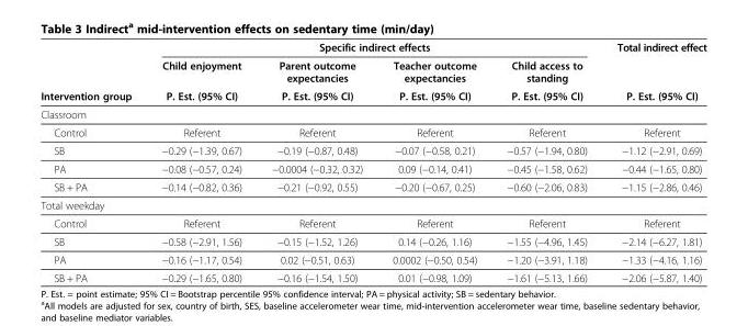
<table><thead><tr><td rowspan="3">Intervention group</td><td colspan="4">Specific indirect effects</td><td rowspan="3">Total indirect effect P. Est. (95% CI)</td></tr><tr><td rowspan="2">Child enjoyment P. Est. (95% CI)</td><td rowspan="2">Parent outcome expectancies P. Est. (95% CI)</td><td rowspan="2">Teacher outcome expectancies P. Est. (95% CI)</td><td rowspan="2">Child access to standing P. Est. (95% CI)</td></tr><tr></tr></thead><tbody><tr><td colspan="6">Classroom</td></tr><tr><td>Control</td><td>Referent</td><td>Referent</td><td>Referent</td><td>Referent</td><td>Referent</td></tr><tr><td>SB</td><td>−0.29 (−1.39, 0.67)</td><td>−0.19 (−0.87, 0.48)</td><td>−0.07 (−0.58, 0.21)</td><td>−0.57 (−1.94, 0.80)</td><td>−1.12 (−2.91, 0.69)</td></tr><tr><td>PA</td><td>−0.08 (−0.57, 0.24)</td><td>−0.0004 (−0.32, 0.32)</td><td>0.09 (−0.14, 0.41)</td><td>−0.45 (−1.58, 0.62)</td><td>−0.44 (−1.65, 0.80)</td></tr><tr><td>SB + PA</td><td>−0.14 (−0.82, 0.36)</td><td>−0.21 (−0.92, 0.55)</td><td>−0.20 (−0.67, 0.25)</td><td>−0.60 (−2.06, 0.83)</td><td>−1.15 (−2.86, 0.46)</td></tr><tr><td colspan="6">Total weekday</td></tr><tr><td>Control</td><td>Referent</td><td>Referent</td><td>Referent</td><td>Referent</td><td>Referent</td></tr><tr><td>SB</td><td>−0.58 (−2.91, 1.56)</td><td>−0.15 (−1.52, 1.26)</td><td>0.14 (−0.26, 1.16)</td><td>−1.55 (−4.96, 1.45)</td><td>−2.14 (−6.27, 1.81)</td></tr><tr><td>PA</td><td>−0.16 (−1.17, 0.54)</td><td>0.02 (−0.51, 0.63)</td><td>0.0002 (−0.50, 0.54)</td><td>−1.20 (−3.91, 1.18)</td><td>−1.33 (−4.16, 1.16)</td></tr><tr><td>SB + PA</td><td>−0.29 (−1.65, 0.80)</td><td>−0.16 (−1.54, 1.50)</td><td>0.01 (−0.98, 1.09)</td><td>−1.61 (−5.13, 1.66)</td><td>−2.06 (−5.87, 1.40)</td></tr></tbody></table>